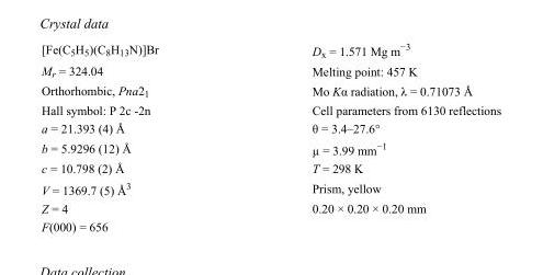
<table><tbody><tr><td>[Fe(C<sub>5</sub>H<sub>5</sub>)(C<sub>8</sub>H<sub>13</sub>N)]Br</td><td>D<sub>x</sub> = 1.571 Mg m<sup>−3</sup></td></tr><tr><td>M<sub>r</sub> = 324.04</td><td>Melting point: 457 K</td></tr><tr><td>Orthorhombic, Pna2<sub>1</sub></td><td>Mo Kα radiation, λ = 0.71073 Å</td></tr><tr><td>Hall symbol: P 2c -2n</td><td>Cell parameters from 6130 reflections</td></tr><tr><td>a = 21.393 (4) Å</td><td>θ = 3.4–27.6°</td></tr><tr><td>b = 5.9296 (12) Å</td><td>µ = 3.99 mm<sup>−1</sup></td></tr><tr><td>c = 10.798 (2) Å</td><td>T = 298 K</td></tr><tr><td>V = 1369.7 (5) Å<sup>3</sup></td><td>Prism, yellow</td></tr><tr><td>Z = 4</td><td>0.20 × 0.20 × 0.20 mm</td></tr><tr><td>F(000) = 656</td><td></td></tr></tbody></table>